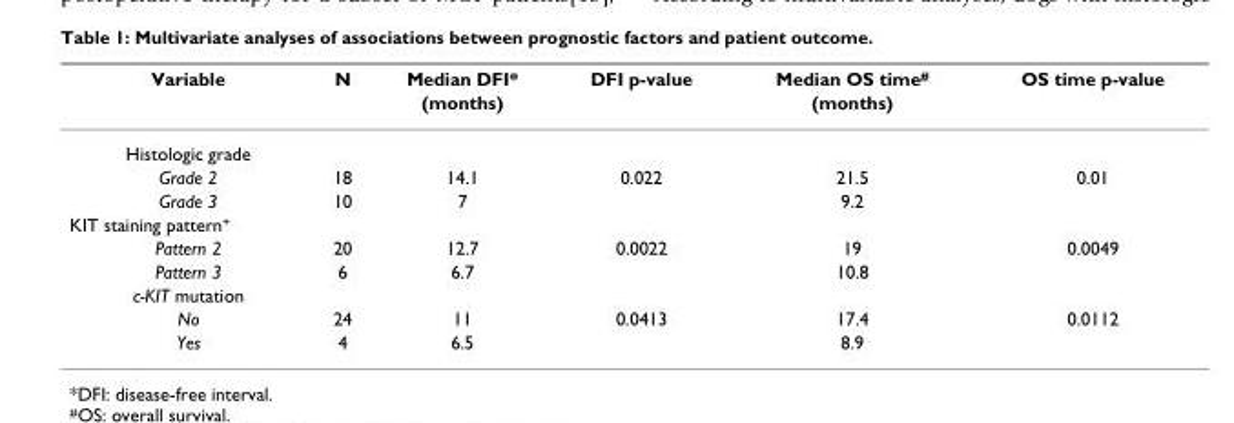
<table><thead><tr><td rowspan="2">Variable</td><td rowspan="2">N</td><td rowspan="2">Median DFI* (months)</td><td rowspan="2">DFI p-value</td><td rowspan="2">Median OS time# (months)</td><td rowspan="2">OS time p-value</td></tr><tr></tr></thead><tbody><tr><td colspan="6">Histologic grade</td></tr><tr><td>Grade 2</td><td>18</td><td>14.1</td><td>0.022</td><td>21.5</td><td>0.01</td></tr><tr><td>Grade 3</td><td>10</td><td>7</td><td></td><td>9.2</td><td></td></tr><tr><td colspan="6">KIT staining pattern<sup>+</sup></td></tr><tr><td>Pattern 2</td><td>20</td><td>12.7</td><td>0.0022</td><td>19</td><td>0.0049</td></tr><tr><td>Pattern 3</td><td>6</td><td>6.7</td><td></td><td>10.8</td><td></td></tr><tr><td colspan="6">c-KIT mutation</td></tr><tr><td>No</td><td>24</td><td>11</td><td>0.0413</td><td>17.4</td><td>0.0112</td></tr><tr><td>Yes</td><td>4</td><td>6.5</td><td></td><td>8.9</td><td></td></tr></tbody></table>